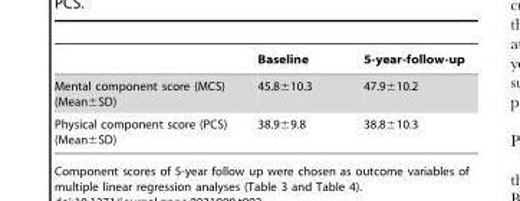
<table><thead><tr><td></td><td>Baseline</td><td>5-year-follow-up</td></tr></thead><tbody><tr><td>Mental component score (MCS) (Mean±SD)</td><td>45.8±10.3</td><td>47.9±10.2</td></tr><tr><td>Physical component score (PCS) (Mean±SD)</td><td>38.9±9.8</td><td>38.8±10.3</td></tr></tbody></table>